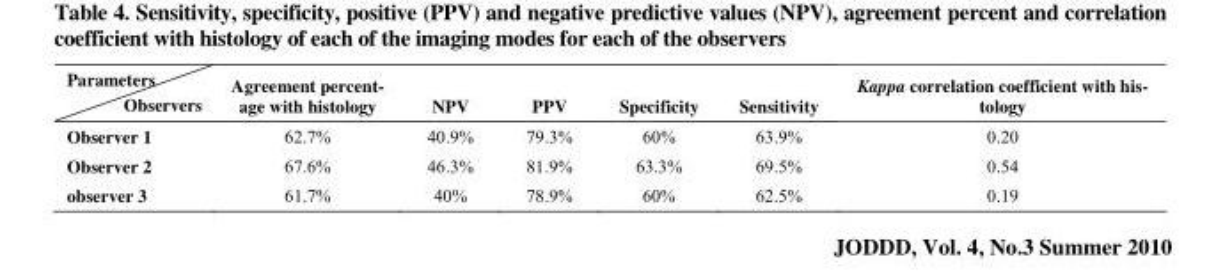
<table><tbody><tr><td>Parameters Observers</td><td>Agreement percent- age with histology</td><td>NPV</td><td>PPV</td><td>Specificity</td><td>Sensitivity</td><td>Kappa correlation coefficient with his- tology</td></tr><tr><td>Observer 1</td><td>62.7%</td><td>40.9%</td><td>79.3%</td><td>60%</td><td>63.9%</td><td>0.20</td></tr><tr><td>Observer 2</td><td>67.6%</td><td>46.3%</td><td>81.9%</td><td>63.3%</td><td>69.5%</td><td>0.54</td></tr><tr><td>observer 3</td><td>61.7%</td><td>40%</td><td>78.9%</td><td>60%</td><td>62.5%</td><td>0.19</td></tr></tbody></table>